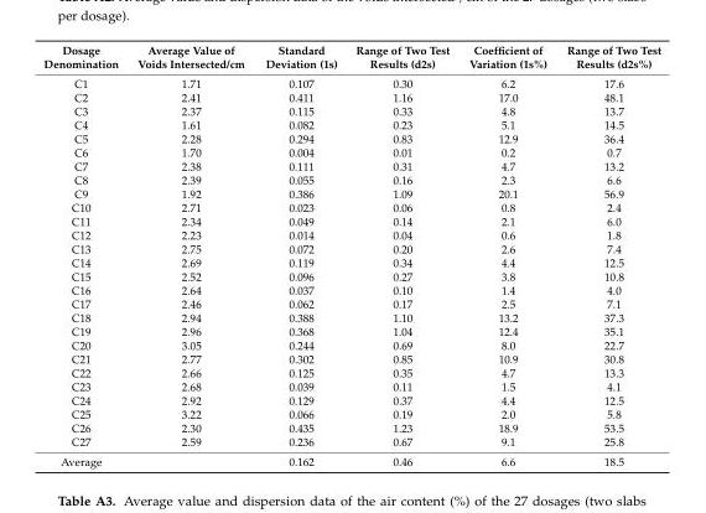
<table><thead><tr><td>Dosage Denomination</td><td>Average Value of Voids Intersected/cm</td><td>Standard Deviation (1s)</td><td>Range of Two Test Results (d2s)</td><td>Coefficient of Variation (1s%)</td><td>Range of Two Test Results (d2s%)</td></tr></thead><tbody><tr><td>C1</td><td>1.71</td><td>0.107</td><td>0.30</td><td>6.2</td><td>17.6</td></tr><tr><td>C2</td><td>2.41</td><td>0.411</td><td>1.16</td><td>17.0</td><td>48.1</td></tr><tr><td>C3</td><td>2.37</td><td>0.115</td><td>0.33</td><td>4.8</td><td>13.7</td></tr><tr><td>C4</td><td>1.61</td><td>0.082</td><td>0.23</td><td>5.1</td><td>14.5</td></tr><tr><td>C5</td><td>2.28</td><td>0.294</td><td>0.83</td><td>12.9</td><td>36.4</td></tr><tr><td>C6</td><td>1.70</td><td>0.004</td><td>0.01</td><td>0.2</td><td>0.7</td></tr><tr><td>C7</td><td>2.38</td><td>0.111</td><td>0.31</td><td>4.7</td><td>13.2</td></tr><tr><td>C8</td><td>2.39</td><td>0.055</td><td>0.16</td><td>2.3</td><td>6.6</td></tr><tr><td>C9</td><td>1.92</td><td>0.386</td><td>1.09</td><td>20.1</td><td>56.9</td></tr><tr><td>C10</td><td>2.71</td><td>0.023</td><td>0.06</td><td>0.8</td><td>2.4</td></tr><tr><td>C11</td><td>2.34</td><td>0.049</td><td>0.14</td><td>2.1</td><td>6.0</td></tr><tr><td>C12</td><td>2.23</td><td>0.014</td><td>0.04</td><td>0.6</td><td>1.8</td></tr><tr><td>C13</td><td>2.75</td><td>0.072</td><td>0.20</td><td>2.6</td><td>7.4</td></tr><tr><td>C14</td><td>2.69</td><td>0.119</td><td>0.34</td><td>4.4</td><td>12.5</td></tr><tr><td>C15</td><td>2.52</td><td>0.096</td><td>0.27</td><td>3.8</td><td>10.8</td></tr><tr><td>C16</td><td>2.64</td><td>0.037</td><td>0.10</td><td>1.4</td><td>4.0</td></tr><tr><td>C17</td><td>2.46</td><td>0.062</td><td>0.17</td><td>2.5</td><td>7.1</td></tr><tr><td>C18</td><td>2.94</td><td>0.388</td><td>1.10</td><td>13.2</td><td>37.3</td></tr><tr><td>C19</td><td>2.96</td><td>0.368</td><td>1.04</td><td>12.4</td><td>35.1</td></tr><tr><td>C20</td><td>3.05</td><td>0.244</td><td>0.69</td><td>8.0</td><td>22.7</td></tr><tr><td>C21</td><td>2.77</td><td>0.302</td><td>0.85</td><td>10.9</td><td>30.8</td></tr><tr><td>C22</td><td>2.66</td><td>0.125</td><td>0.35</td><td>4.7</td><td>13.3</td></tr><tr><td>C23</td><td>2.68</td><td>0.039</td><td>0.11</td><td>1.5</td><td>4.1</td></tr><tr><td>C24</td><td>2.92</td><td>0.129</td><td>0.37</td><td>4.4</td><td>12.5</td></tr><tr><td>C25</td><td>3.22</td><td>0.066</td><td>0.19</td><td>2.0</td><td>5.8</td></tr><tr><td>C26</td><td>2.30</td><td>0.435</td><td>1.23</td><td>18.9</td><td>53.5</td></tr><tr><td>C27</td><td>2.59</td><td>0.236</td><td>0.67</td><td>9.1</td><td>25.8</td></tr><tr><td>Average</td><td></td><td>0.162</td><td>0.46</td><td>6.6</td><td>18.5</td></tr></tbody></table>